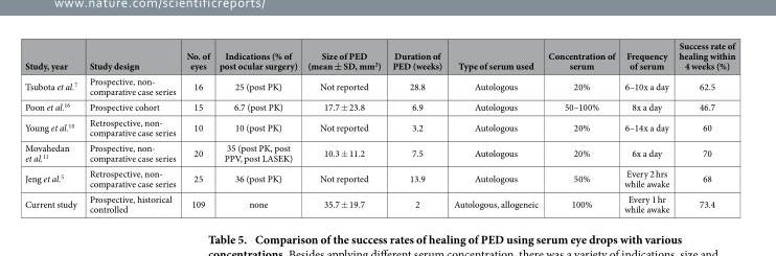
<table><thead><tr><td>Study, year</td><td>Study design</td><td>No. of eyes</td><td>Indications (% of post ocular surgery)</td><td>Size of PED (mean ± SD, mm<sup>2</sup>)</td><td>Duration of PED (weeks)</td><td>Type of serum used</td><td>Concentration of serum</td><td>Frequency of serum</td><td>Success rate of healing within 4 weeks (%)</td></tr></thead><tbody><tr><td>Tsubota et al.<sup>7</sup></td><td>Prospective, non- comparative case series</td><td>16</td><td>25 (post PK)</td><td>Not reported</td><td>28.8</td><td>Autologous</td><td>20%</td><td>6–10x a day</td><td>62.5</td></tr><tr><td>Poon et al.<sup>16</sup></td><td>Prospective cohort</td><td>15</td><td>6.7 (post PK)</td><td>17.7 ± 23.8</td><td>6.9</td><td>Autologous</td><td>50–100%</td><td>8x a day</td><td>46.7</td></tr><tr><td>Young et al.<sup>10</sup></td><td>Retrospective, non- comparative case series</td><td>10</td><td>10 (post PK)</td><td>Not reported</td><td>3.2</td><td>Autologous</td><td>20%</td><td>6–14x a day</td><td>60</td></tr><tr><td>Movahedan et al.<sup>11</sup></td><td>Prospective, non- comparative case series</td><td>20</td><td>35 (post PK, post PPV, post LASEK)</td><td>10.3 ± 11.2</td><td>7.5</td><td>Autologous</td><td>20%</td><td>6x a day</td><td>70</td></tr><tr><td>Jeng et al.<sup>5</sup></td><td>Retrospective, non- comparative case series</td><td>25</td><td>36 (post PK)</td><td>Not reported</td><td>13.9</td><td>Autologous</td><td>50%</td><td>Every 2 hrs while awake</td><td>68</td></tr><tr><td>Current study</td><td>Prospective, historical controlled</td><td>109</td><td>none</td><td>35.7 ± 19.7</td><td>2</td><td>Autologous, allogeneic</td><td>100%</td><td>Every 1 hr while awake</td><td>73.4</td></tr></tbody></table>